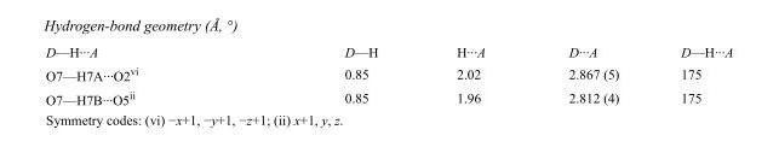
<table><tbody><tr><td>D—H···A</td><td>D—H</td><td>H···A</td><td>D···A</td><td>D—H···A</td></tr><tr><td>O7—H7A···O2<sup>vi</sup></td><td>0.85</td><td>2.02</td><td>2.867 (5)</td><td>175</td></tr><tr><td>O7—H7B···O5<sup>ii</sup></td><td>0.85</td><td>1.96</td><td>2.812 (4)</td><td>175</td></tr></tbody></table>